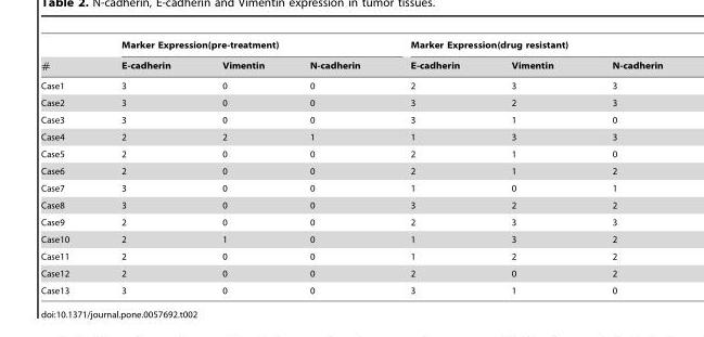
<table><thead><tr><td rowspan="2">#</td><td colspan="3">Marker Expression(pre-treatment)</td><td colspan="3">Marker Expression(drug resistant)</td></tr><tr><td>E-cadherin</td><td>Vimentin</td><td>N-cadherin</td><td>E-cadherin</td><td>Vimentin</td><td>N-cadherin</td></tr></thead><tbody><tr><td>Case1</td><td>3</td><td>0</td><td>0</td><td>2</td><td>3</td><td>3</td></tr><tr><td>Case2</td><td>3</td><td>0</td><td>0</td><td>3</td><td>2</td><td>3</td></tr><tr><td>Case3</td><td>3</td><td>0</td><td>0</td><td>3</td><td>1</td><td>0</td></tr><tr><td>Case4</td><td>2</td><td>2</td><td>1</td><td>1</td><td>3</td><td>3</td></tr><tr><td>Case5</td><td>2</td><td>0</td><td>0</td><td>2</td><td>1</td><td>0</td></tr><tr><td>Case6</td><td>2</td><td>0</td><td>0</td><td>2</td><td>1</td><td>2</td></tr><tr><td>Case7</td><td>3</td><td>0</td><td>0</td><td>1</td><td>0</td><td>1</td></tr><tr><td>Case8</td><td>3</td><td>0</td><td>0</td><td>3</td><td>2</td><td>2</td></tr><tr><td>Case9</td><td>2</td><td>0</td><td>0</td><td>2</td><td>3</td><td>3</td></tr><tr><td>Case10</td><td>2</td><td>1</td><td>0</td><td>1</td><td>3</td><td>2</td></tr><tr><td>Case11</td><td>2</td><td>0</td><td>0</td><td>1</td><td>2</td><td>2</td></tr><tr><td>Case12</td><td>2</td><td>0</td><td>0</td><td>2</td><td>0</td><td>2</td></tr><tr><td>Case13</td><td>3</td><td>0</td><td>0</td><td>3</td><td>1</td><td>0</td></tr></tbody></table>